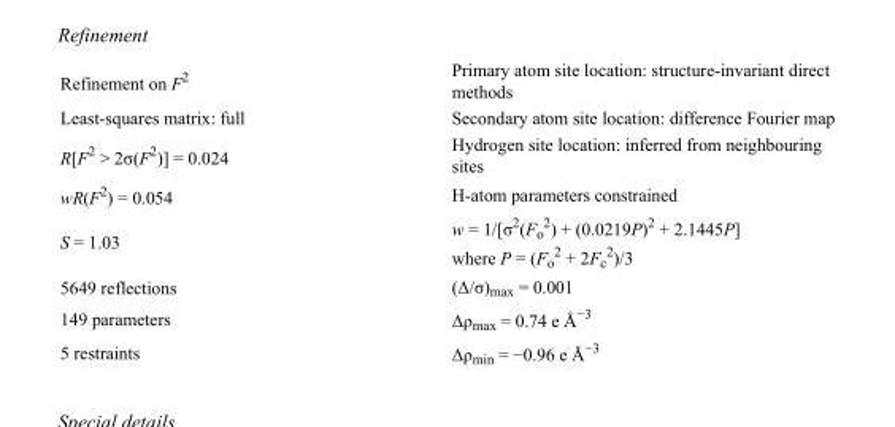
<table><tbody><tr><td>Refinement on F<sup>2</sup></td><td>Primary atom site location: structure-invariant direct methods</td></tr><tr><td>Least-squares matrix: full</td><td>Secondary atom site location: difference Fourier map</td></tr><tr><td>R[F<sup>2</sup> &gt; 2σ(F<sup>2</sup>)] = 0.024</td><td>Hydrogen site location: inferred from neighbouring sites</td></tr><tr><td>wR(F<sup>2</sup>) = 0.054</td><td>H-atom parameters constrained</td></tr><tr><td>S = 1.03</td><td>w = 1/[σ<sup>2</sup>(F<sub>o</sub> <sup>2</sup>) + (0.0219P)<sup>2</sup> + 2.1445P] where P = (F<sub>o</sub> <sup>2</sup> + 2F<sub>c</sub> <sup>2</sup>)/3</td></tr><tr><td>5649 reflections</td><td>(Δ/σ)<sub>max</sub> = 0.001</td></tr><tr><td>149 parameters</td><td>Δρ<sub>max</sub> = 0.74 e Å<sup>−3</sup></td></tr><tr><td>5 restraints</td><td>Δρ<sub>min</sub> = −0.96 e Å<sup>−3</sup></td></tr></tbody></table>